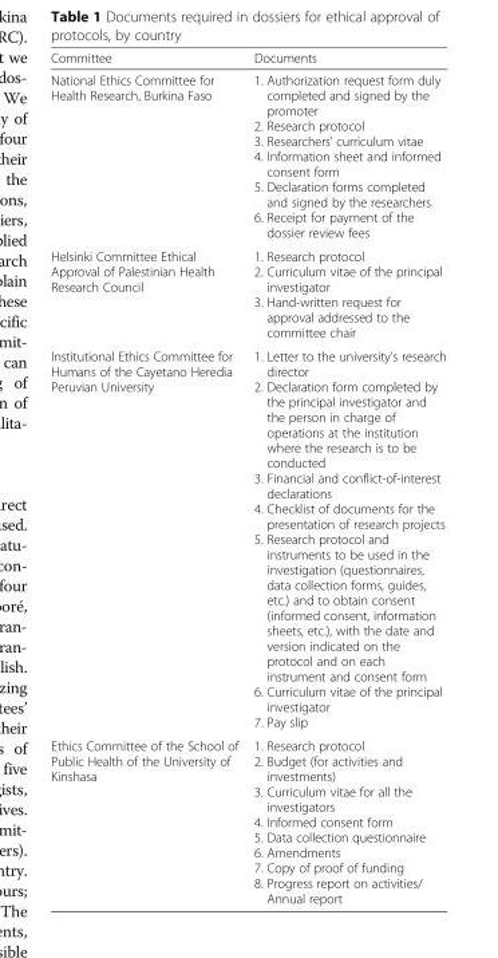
<table><thead><tr><td>Committee</td><td>Documents</td></tr></thead><tbody><tr><td>National Ethics Committee for Health Research, Burkina Faso</td><td>1. Authorization request form duly completed and signed by the promoter 2. Research protocol 3. Researchers’ curriculum vitae 4. Information sheet and informed consent form 5. Declaration forms completed and signed by the researchers 6. Receipt for payment of the dossier review fees</td></tr><tr><td>Helsinki Committee Ethical Approval of Palestinian Health Research Council</td><td>1. Research protocol 2. Curriculum vitae of the principal investigator 3. Hand-written request for approval addressed to the committee chair</td></tr><tr><td>Institutional Ethics Committee for Humans of the Cayetano Heredia Peruvian University</td><td>1. Letter to the university’s research director 2. Declaration form completed by the principal investigator and the person in charge of operations at the institution where the research is to be conducted 3. Financial and conflict-of-interest declarations 4. Checklist of documents for the presentation of research projects 5. Research protocol and instruments to be used in the investigation (questionnaires, data collection forms, guides, etc.) and to obtain consent (informed consent, information sheets, etc.), with the date and version indicated on the protocol and on each instrument and consent form 6. Curriculum vitae of the principal investigator 7. Pay slip</td></tr><tr><td>Ethics Committee of the School of Public Health of the University of Kinshasa</td><td>1. Research protocol 2. Budget (for activities and investments) 3. Curriculum vitae for all the investigators 4. Informed consent form 5. Data collection questionnaire 6. Amendments 7. Copy of proof of funding 8. Progress report on activities/ Annual report</td></tr></tbody></table>